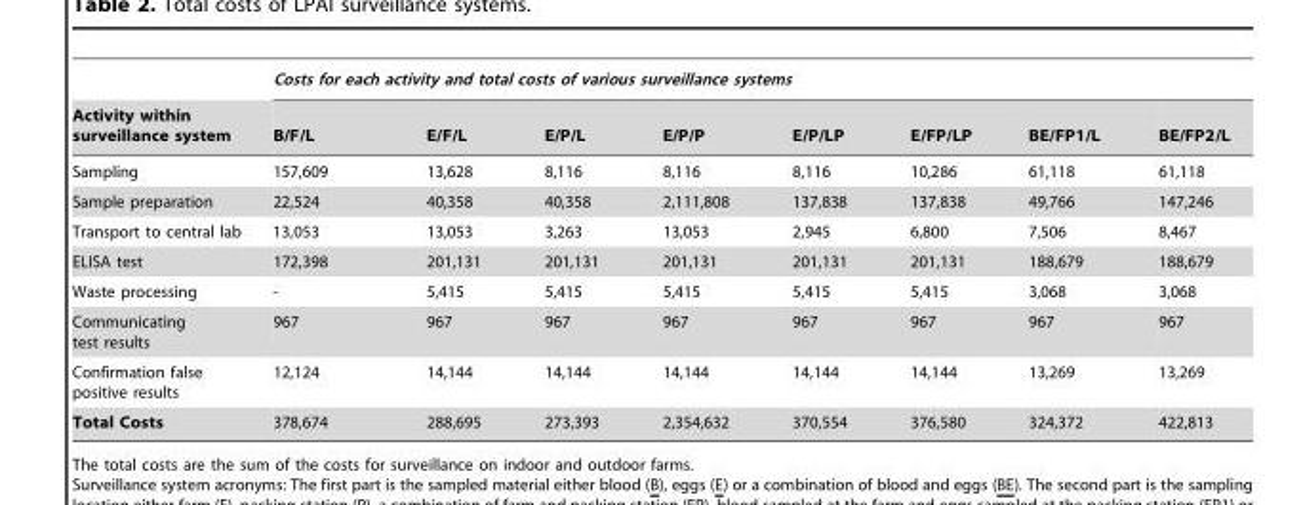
<table><thead><tr><td rowspan="2">Activity within surveillance system</td><td colspan="8">Costs for each activity and total costs of various surveillance systems</td></tr><tr><td>B/F/L</td><td>E/F/L</td><td>E/P/L</td><td>E/P/P</td><td>E/P/LP</td><td>E/FP/LP</td><td>BE/FP1/L</td><td>BE/FP2/L</td></tr></thead><tbody><tr><td>Sampling</td><td>157,609</td><td>13,628</td><td>8,116</td><td>8,116</td><td>8,116</td><td>10,286</td><td>61,118</td><td>61,118</td></tr><tr><td>Sample preparation</td><td>22,524</td><td>40,358</td><td>40,358</td><td>2,111,808</td><td>137,838</td><td>137,838</td><td>49,766</td><td>147,246</td></tr><tr><td>Transport to central lab</td><td>13,053</td><td>13,053</td><td>3,263</td><td>13,053</td><td>2,945</td><td>6,800</td><td>7,506</td><td>8,467</td></tr><tr><td>ELISA test</td><td>172,398</td><td>201,131</td><td>201,131</td><td>201,131</td><td>201,131</td><td>201,131</td><td>188,679</td><td>188,679</td></tr><tr><td>Waste processing</td><td>-</td><td>5,415</td><td>5,415</td><td>5,415</td><td>5,415</td><td>5,415</td><td>3,068</td><td>3,068</td></tr><tr><td>Communicating test results</td><td>967</td><td>967</td><td>967</td><td>967</td><td>967</td><td>967</td><td>967</td><td>967</td></tr><tr><td>Confirmation false positive results</td><td>12,124</td><td>14,144</td><td>14,144</td><td>14,144</td><td>14,144</td><td>14,144</td><td>13,269</td><td>13,269</td></tr><tr><td>Total Costs</td><td>378,674</td><td>288,695</td><td>273,393</td><td>2,354,632</td><td>370,554</td><td>376,580</td><td>324,372</td><td>422,813</td></tr></tbody></table>